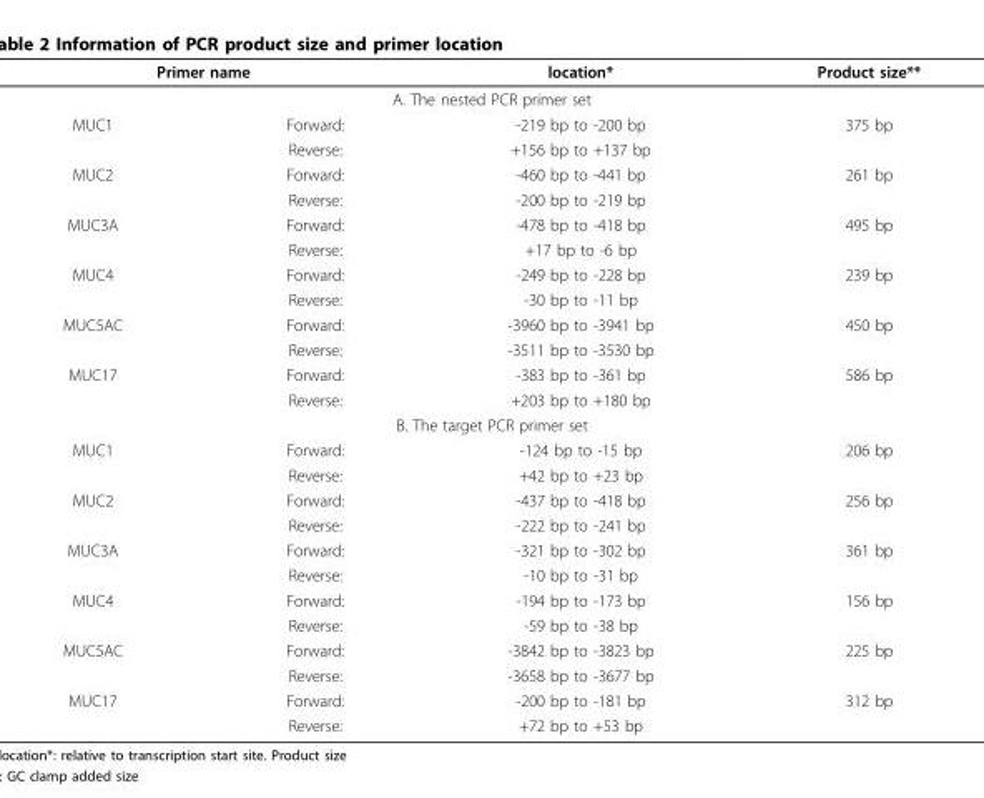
<table><thead><tr><td colspan="2">Primer name</td><td>location*</td><td>Product size**</td></tr><tr><td colspan="4">A. The nested PCR primer set</td></tr><tr><td>MUC1</td><td>Forward:</td><td>-219 bp to -200 bp</td><td>375 bp</td></tr></thead><tbody><tr><td></td><td>Reverse:</td><td>+156 bp to +137 bp</td><td></td></tr><tr><td rowspan="2">MUC2</td><td>Forward:</td><td>-460 bp to -441 bp</td><td>261 bp</td></tr><tr><td>Reverse:</td><td>-200 bp to -219 bp</td><td></td></tr><tr><td rowspan="2">MUC3A</td><td>Forward:</td><td>-478 bp to -418 bp</td><td>495 bp</td></tr><tr><td>Reverse:</td><td>+17 bp to -6 bp</td><td></td></tr><tr><td rowspan="2">MUC4</td><td>Forward:</td><td>-249 bp to -228 bp</td><td>239 bp</td></tr><tr><td>Reverse:</td><td>-30 bp to -11 bp</td><td></td></tr><tr><td rowspan="2">MUC5AC</td><td>Forward:</td><td>-3960 bp to -3941 bp</td><td>450 bp</td></tr><tr><td>Reverse:</td><td>-3511 bp to -3530 bp</td><td></td></tr><tr><td rowspan="2">MUC17</td><td>Forward:</td><td>-383 bp to -361 bp</td><td>586 bp</td></tr><tr><td>Reverse:</td><td>+203 bp to +180 bp</td><td></td></tr><tr><td colspan="4">B. The target PCR primer set</td></tr><tr><td rowspan="2">MUC1</td><td>Forward:</td><td>-124 bp to -15 bp</td><td>206 bp</td></tr><tr><td>Reverse:</td><td>+42 bp to +23 bp</td><td></td></tr><tr><td rowspan="2">MUC2</td><td>Forward:</td><td>-437 bp to -418 bp</td><td>256 bp</td></tr><tr><td>Reverse:</td><td>-222 bp to -241 bp</td><td></td></tr><tr><td rowspan="2">MUC3A</td><td>Forward:</td><td>-321 bp to -302 bp</td><td>361 bp</td></tr><tr><td>Reverse:</td><td>-10 bp to -31 bp</td><td></td></tr><tr><td rowspan="2">MUC4</td><td>Forward:</td><td>-194 bp to -173 bp</td><td>156 bp</td></tr><tr><td>Reverse:</td><td>-59 bp to -38 bp</td><td></td></tr><tr><td rowspan="2">MUC5AC</td><td>Forward:</td><td>-3842 bp to -3823 bp</td><td>225 bp</td></tr><tr><td>Reverse:</td><td>-3658 bp to -3677 bp</td><td></td></tr><tr><td rowspan="2">MUC17</td><td>Forward:</td><td>-200 bp to -181 bp</td><td>312 bp</td></tr><tr><td>Reverse:</td><td>+72 bp to +53 bp</td><td></td></tr></tbody></table>